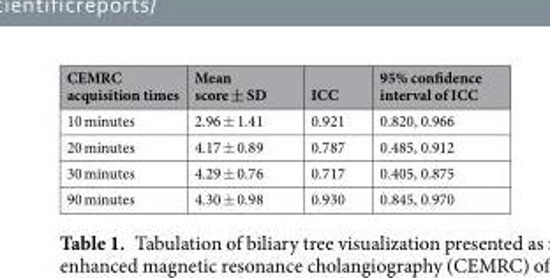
<table><thead><tr><td>CEMRC acquisition times</td><td>Mean score ± SD</td><td>ICC</td><td>95% confidence interval of ICC</td></tr></thead><tbody><tr><td>10 minutes</td><td>2.96 ± 1.41</td><td>0.921</td><td>0.820, 0.966</td></tr><tr><td>20 minutes</td><td>4.17 ± 0.89</td><td>0.787</td><td>0.485, 0.912</td></tr><tr><td>30 minutes</td><td>4.29 ± 0.76</td><td>0.717</td><td>0.405, 0.875</td></tr><tr><td>90 minutes</td><td>4.30 ± 0.98</td><td>0.930</td><td>0.845, 0.970</td></tr></tbody></table>